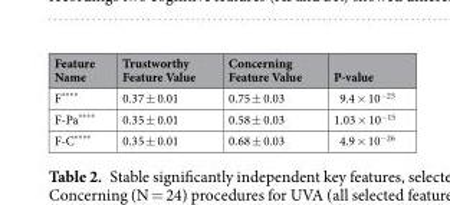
<table><thead><tr><td>Feature Name</td><td>Trustworthy Feature Value</td><td>Concerning Feature Value</td><td>P-value</td></tr></thead><tbody><tr><td>F****</td><td>0.37 ± 0.01</td><td>0.75 ± 0.03</td><td>9.4 × 10<sup>−25</sup></td></tr><tr><td>F-Pa****</td><td>0.35 ± 0.01</td><td>0.58 ± 0.03</td><td>1.03 × 10<sup>−15</sup></td></tr><tr><td>F-C****</td><td>0.35 ± 0.01</td><td>0.68 ± 0.03</td><td>4.9 × 10<sup>−26</sup></td></tr></tbody></table>